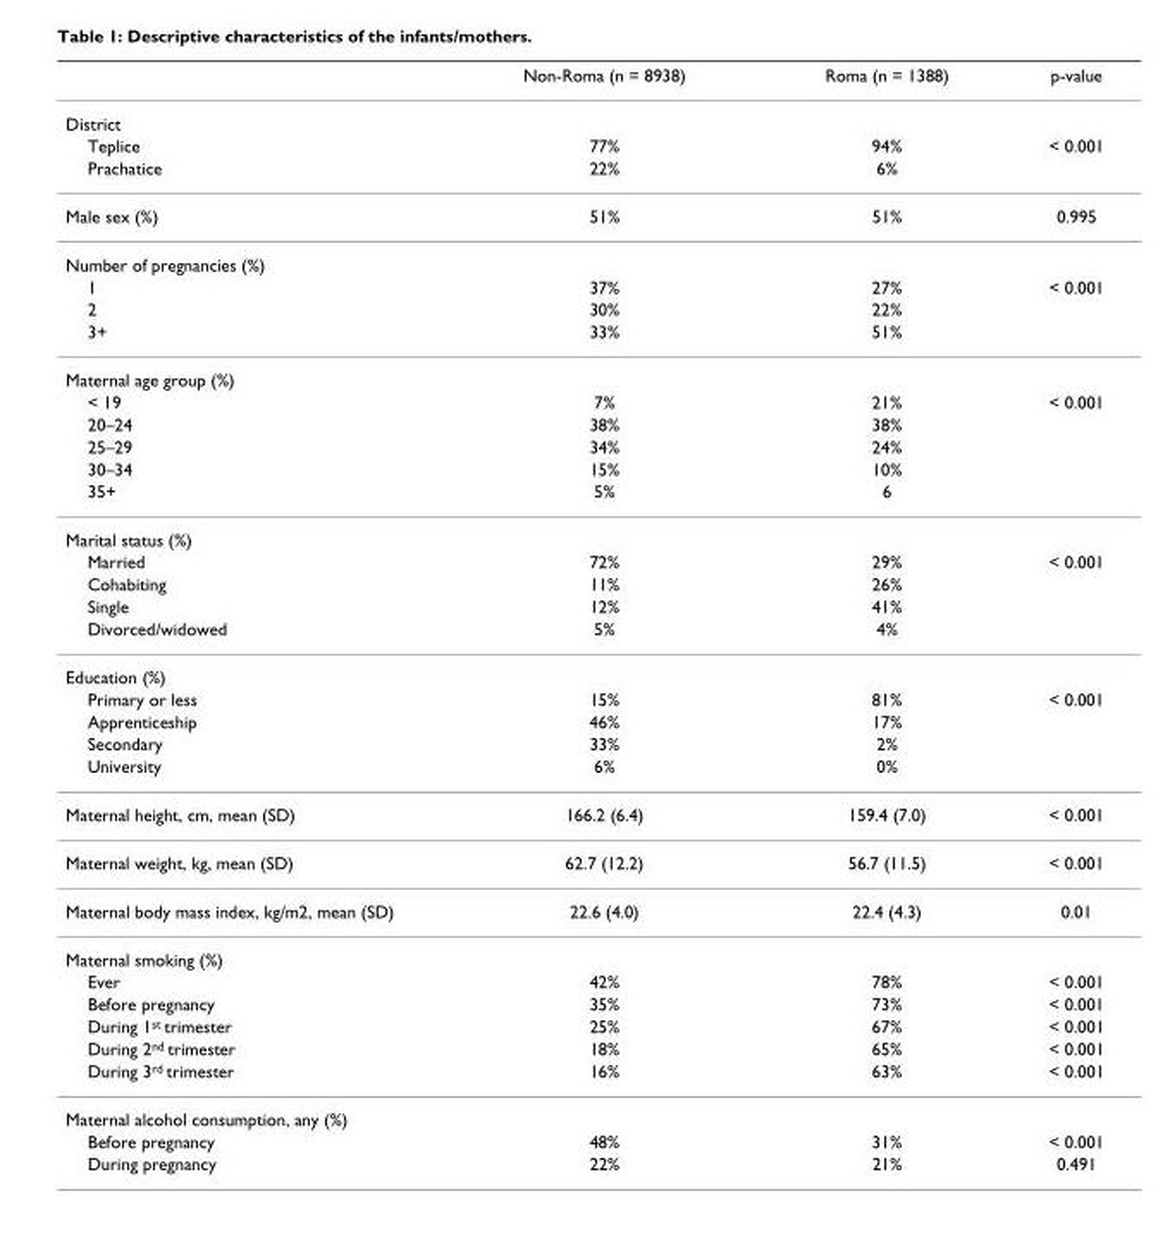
<table><thead><tr><td></td><td>Non-Roma (n = 8938)</td><td>Roma (n = 1388)</td><td>p-value</td></tr></thead><tbody><tr><td colspan="4">District</td></tr><tr><td>Teplice</td><td>77%</td><td>94%</td><td>&lt; 0.001</td></tr><tr><td>Prachatice</td><td>22%</td><td>6%</td><td></td></tr><tr><td>Male sex (%)</td><td>51%</td><td>51%</td><td>0.995</td></tr><tr><td colspan="4">Number of pregnancies (%)</td></tr><tr><td>1</td><td>37%</td><td>27%</td><td>&lt; 0.001</td></tr><tr><td>2</td><td>30%</td><td>22%</td><td></td></tr><tr><td>3+</td><td>33%</td><td>51%</td><td></td></tr><tr><td colspan="4">Maternal age group (%)</td></tr><tr><td>&lt; 19</td><td>7%</td><td>21%</td><td>&lt; 0.001</td></tr><tr><td>20–24</td><td>38%</td><td>38%</td><td></td></tr><tr><td>25–29</td><td>34%</td><td>24%</td><td></td></tr><tr><td>30–34</td><td>15%</td><td>10%</td><td></td></tr><tr><td>35+</td><td>5%</td><td>6</td><td></td></tr><tr><td colspan="4">Marital status (%)</td></tr><tr><td>Married</td><td>72%</td><td>29%</td><td>&lt; 0.001</td></tr><tr><td>Cohabiting</td><td>11%</td><td>26%</td><td></td></tr><tr><td>Single</td><td>12%</td><td>41%</td><td></td></tr><tr><td>Divorced/widowed</td><td>5%</td><td>4%</td><td></td></tr><tr><td colspan="4">Education (%)</td></tr><tr><td>Primary or less</td><td>15%</td><td>81%</td><td>&lt; 0.001</td></tr><tr><td>Apprenticeship</td><td>46%</td><td>17%</td><td></td></tr><tr><td>Secondary</td><td>33%</td><td>2%</td><td></td></tr><tr><td>University</td><td>6%</td><td>0%</td><td></td></tr><tr><td>Maternal height, cm, mean (SD)</td><td>166.2 (6.4)</td><td>159.4 (7.0)</td><td>&lt; 0.001</td></tr><tr><td>Maternal weight, kg, mean (SD)</td><td>62.7 (12.2)</td><td>56.7 (11.5)</td><td>&lt; 0.001</td></tr><tr><td>Maternal body mass index, kg/m2, mean (SD)</td><td>22.6 (4.0)</td><td>22.4 (4.3)</td><td>0.01</td></tr><tr><td colspan="4">Maternal smoking (%)</td></tr><tr><td>Ever</td><td>42%</td><td>78%</td><td>&lt; 0.001</td></tr><tr><td>Before pregnancy</td><td>35%</td><td>73%</td><td>&lt; 0.001</td></tr><tr><td>During 1<sup>st</sup> trimester</td><td>25%</td><td>67%</td><td>&lt; 0.001</td></tr><tr><td>During 2<sup>nd</sup> trimester</td><td>18%</td><td>65%</td><td>&lt; 0.001</td></tr><tr><td>During 3<sup>rd</sup> trimester</td><td>16%</td><td>63%</td><td>&lt; 0.001</td></tr><tr><td colspan="4">Maternal alcohol consumption, any (%)</td></tr><tr><td>Before pregnancy</td><td>48%</td><td>31%</td><td>&lt; 0.001</td></tr><tr><td>During pregnancy</td><td>22%</td><td>21%</td><td>0.491</td></tr></tbody></table>